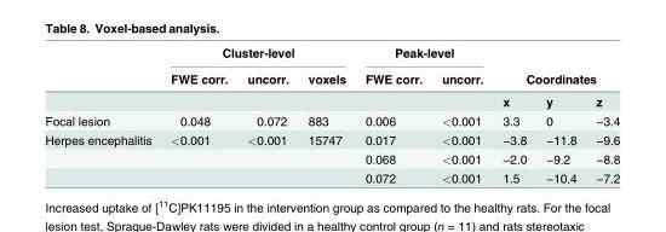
<table><thead><tr><td rowspan="2"></td><td colspan="3">Cluster-level</td><td colspan="2">Peak-level</td><td></td><td></td><td></td></tr><tr><td>FWE corr.</td><td>uncorr.</td><td>voxels</td><td>FWE corr.</td><td>uncorr.</td><td colspan="3">Coordinates</td></tr></thead><tbody><tr><td></td><td></td><td></td><td></td><td></td><td></td><td>x</td><td>y</td><td>z</td></tr><tr><td>Focal lesion</td><td>0.048</td><td>0.072</td><td>883</td><td>0.006</td><td>&lt;0.001</td><td>3.3</td><td>0</td><td>−3.4</td></tr><tr><td rowspan="3">Herpes encephalitis</td><td>&lt;0.001</td><td>&lt;0.001</td><td>15747</td><td>0.017</td><td>&lt;0.001</td><td>−3.8</td><td>−11.8</td><td>−9.6</td></tr><tr><td></td><td></td><td></td><td>0.068</td><td>&lt;0.001</td><td>−2.0</td><td>−9.2</td><td>−8.8</td></tr><tr><td></td><td></td><td></td><td>0.072</td><td>&lt;0.001</td><td>1.5</td><td>−10.4</td><td>−7.2</td></tr></tbody></table>